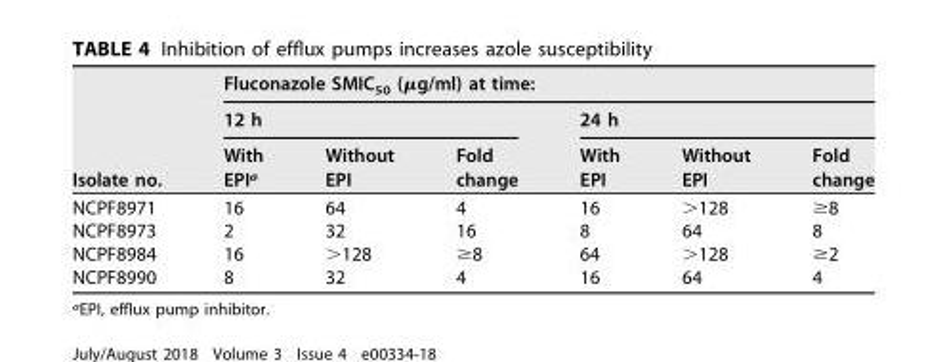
<table><thead><tr><td rowspan="3">Isolate no.</td><td colspan="6">Fluconazole SMIC<sub>50</sub> (μg/ml) at time:</td></tr><tr><td colspan="3">12 h</td><td colspan="3">24 h</td></tr><tr><td>With EPI<sup>a</sup></td><td>Without EPI</td><td>Fold change</td><td>With EPI</td><td>Without EPI</td><td>Fold change</td></tr></thead><tbody><tr><td>NCPF8971</td><td>16</td><td>64</td><td>4</td><td>16</td><td>&gt;128</td><td>≥8</td></tr><tr><td>NCPF8973</td><td>2</td><td>32</td><td>16</td><td>8</td><td>64</td><td>8</td></tr><tr><td>NCPF8984</td><td>16</td><td>&gt;128</td><td>≥8</td><td>64</td><td>&gt;128</td><td>≥2</td></tr><tr><td>NCPF8990</td><td>8</td><td>32</td><td>4</td><td>16</td><td>64</td><td>4</td></tr></tbody></table>